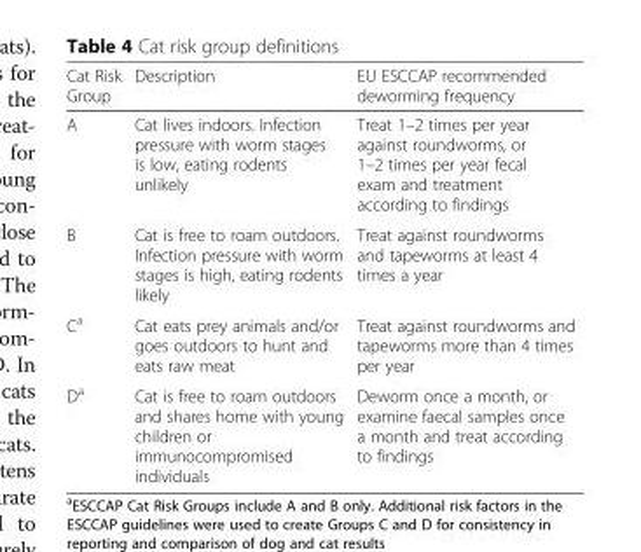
<table><thead><tr><td>Cat Risk Group</td><td>Description</td><td>EU ESCCAP recommended deworming frequency</td></tr></thead><tbody><tr><td>A</td><td>Cat lives indoors. Infection pressure with worm stages is low, eating rodents unlikely</td><td>Treat 1–2 times per year against roundworms, or 1–2 times per year fecal exam and treatment according to findings</td></tr><tr><td>B</td><td>Cat is free to roam outdoors. Infection pressure with worm stages is high, eating rodents likely</td><td>Treat against roundworms and tapeworms at least 4 times a year</td></tr><tr><td>C<sup>a</sup></td><td>Cat eats prey animals and/or goes outdoors to hunt and eats raw meat</td><td>Treat against roundworms and tapeworms more than 4 times per year</td></tr><tr><td>D<sup>a</sup></td><td>Cat is free to roam outdoors and shares home with young children or immunocompromised individuals</td><td>Deworm once a month, or examine faecal samples once a month and treat according to findings</td></tr></tbody></table>